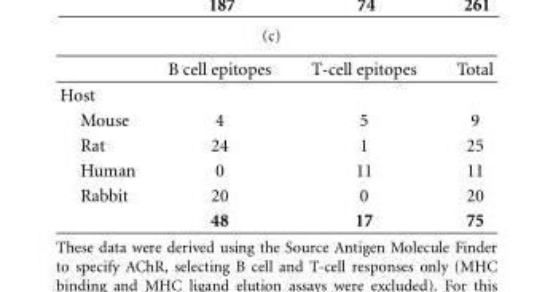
<table><thead><tr><td></td><td>B cell epitopes</td><td>T-cell epitopes</td><td>Total</td></tr></thead><tbody><tr><td colspan="4">Host</td></tr><tr><td>Mouse</td><td>4</td><td>5</td><td>9</td></tr><tr><td>Rat</td><td>24</td><td>1</td><td>25</td></tr><tr><td>Human</td><td>0</td><td>11</td><td>11</td></tr><tr><td rowspan="2">Rabbit</td><td>20</td><td>0</td><td>20</td></tr><tr><td>48</td><td>17</td><td>75</td></tr></tbody></table>